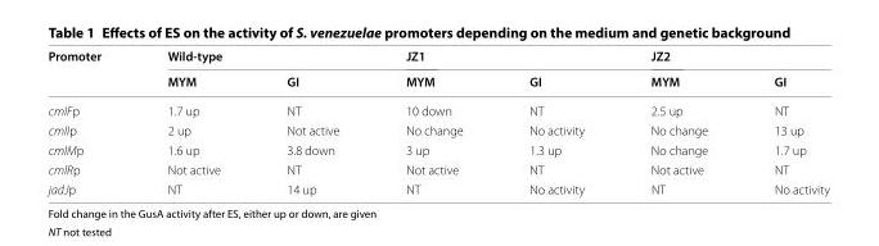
<table><thead><tr><td rowspan="2">Promoter</td><td colspan="2">Wild‑type</td><td colspan="2">JZ1</td><td colspan="2">JZ2</td></tr><tr><td>MYM</td><td>GI</td><td>MYM</td><td>GI</td><td>MYM</td><td>GI</td></tr></thead><tbody><tr><td>cmlFp</td><td>1.7 up</td><td>NT</td><td>10 down</td><td>NT</td><td>2.5 up</td><td>NT</td></tr><tr><td>cmlIp</td><td>2 up</td><td>Not active</td><td>No change</td><td>No activity</td><td>No change</td><td>13 up</td></tr><tr><td>cmlMp</td><td>1.6 up</td><td>3.8 down</td><td>3 up</td><td>1.3 up</td><td>No change</td><td>1.7 up</td></tr><tr><td>cmlRp</td><td>Not active</td><td>NT</td><td>Not active</td><td>NT</td><td>Not active</td><td>NT</td></tr><tr><td>jadJp</td><td>NT</td><td>14 up</td><td>NT</td><td>No activity</td><td>NT</td><td>No activity</td></tr></tbody></table>